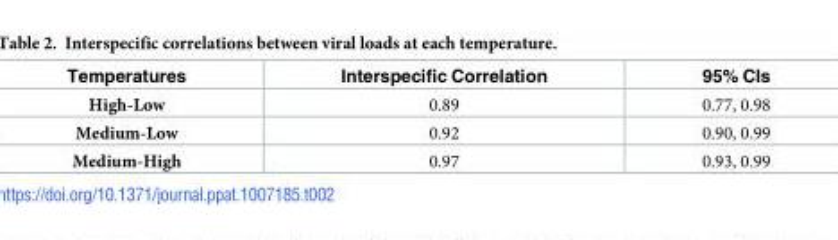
<table><thead><tr><td>Temperatures</td><td>Interspecific Correlation</td><td>95% CIs</td></tr></thead><tbody><tr><td>High-Low</td><td>0.89</td><td>0.77, 0.98</td></tr><tr><td>Medium-Low</td><td>0.92</td><td>0.90, 0.99</td></tr><tr><td>Medium-High</td><td>0.97</td><td>0.93, 0.99</td></tr></tbody></table>